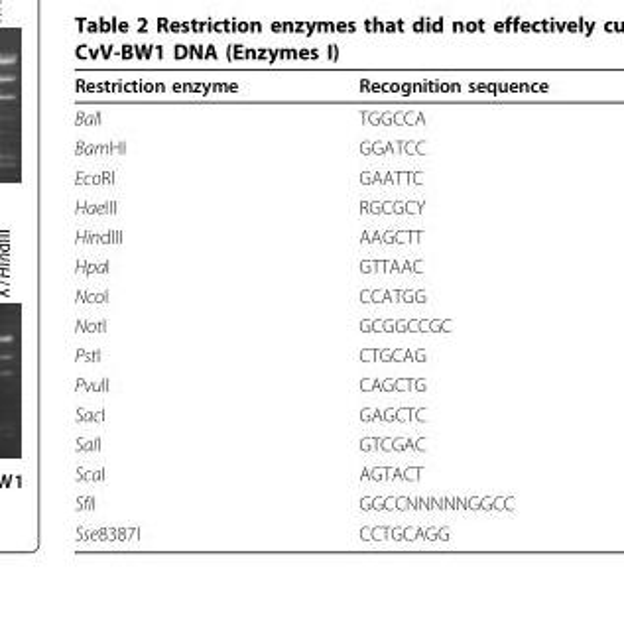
<table><thead><tr><td>Restriction enzyme</td><td>Recognition sequence</td></tr></thead><tbody><tr><td>BalI</td><td>TGGCCA</td></tr><tr><td>BamHI</td><td>GGATCC</td></tr><tr><td>EcoRI</td><td>GAATTC</td></tr><tr><td>HaeIII</td><td>RGCGCY</td></tr><tr><td>HindIII</td><td>AAGCTT</td></tr><tr><td>HpaI</td><td>GTTAAC</td></tr><tr><td>NcoI</td><td>CCATGG</td></tr><tr><td>NotI</td><td>GCGGCCGC</td></tr><tr><td>PstI</td><td>CTGCAG</td></tr><tr><td>PvuII</td><td>CAGCTG</td></tr><tr><td>SacI</td><td>GAGCTC</td></tr><tr><td>SalI</td><td>GTCGAC</td></tr><tr><td>ScaI</td><td>AGTACT</td></tr><tr><td>SfiI</td><td>GGCCNNNNNGGCC</td></tr><tr><td>Sse8387I</td><td>CCTGCAGG</td></tr></tbody></table>